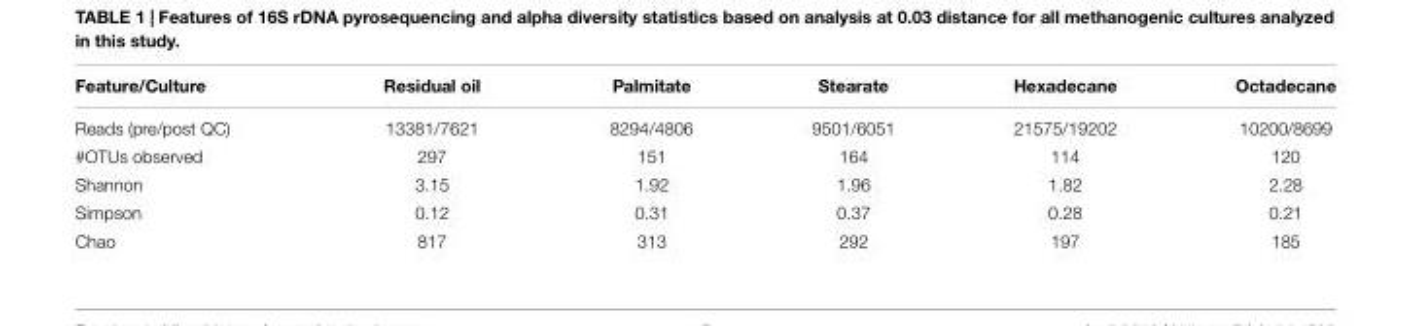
<table><thead><tr><td>Feature/Culture</td><td>Residual oil</td><td>Palmitate</td><td>Stearate</td><td>Hexadecane</td><td>Octadecane</td></tr></thead><tbody><tr><td>Reads (pre/post QC)</td><td>13381/7621</td><td>8294/4806</td><td>9501/6051</td><td>21575/19202</td><td>10200/8699</td></tr><tr><td>#OTUs observed</td><td>297</td><td>151</td><td>164</td><td>114</td><td>120</td></tr><tr><td>Shannon</td><td>3.15</td><td>1.92</td><td>1.96</td><td>1.82</td><td>2.28</td></tr><tr><td>Simpson</td><td>0.12</td><td>0.31</td><td>0.37</td><td>0.28</td><td>0.21</td></tr><tr><td>Chao</td><td>817</td><td>313</td><td>292</td><td>197</td><td>185</td></tr></tbody></table>